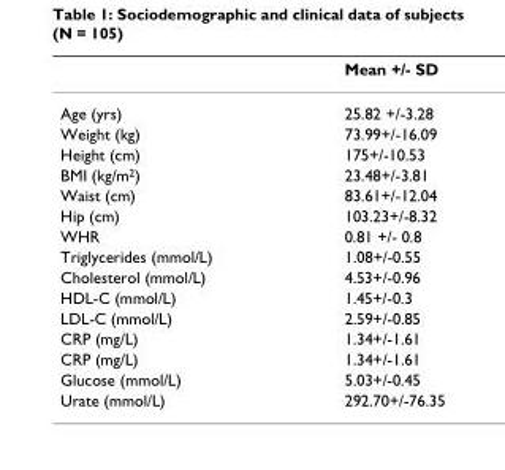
<table><thead><tr><td></td><td>Mean +/- SD</td></tr></thead><tbody><tr><td>Age (yrs)</td><td>25.82 +/-3.28</td></tr><tr><td>Weight (kg)</td><td>73.99+/-16.09</td></tr><tr><td>Height (cm)</td><td>175+/-10.53</td></tr><tr><td>BMI (kg/m<sup>2</sup>)</td><td>23.48+/-3.81</td></tr><tr><td>Waist (cm)</td><td>83.61+/-12.04</td></tr><tr><td>Hip (cm)</td><td>103.23+/-8.32</td></tr><tr><td>WHR</td><td>0.81 +/- 0.8</td></tr><tr><td>Triglycerides (mmol/L)</td><td>1.08+/-0.55</td></tr><tr><td>Cholesterol (mmol/L)</td><td>4.53+/-0.96</td></tr><tr><td>HDL-C (mmol/L)</td><td>1.45+/-0.3</td></tr><tr><td>LDL-C (mmol/L)</td><td>2.59+/-0.85</td></tr><tr><td>CRP (mg/L)</td><td>1.34+/-1.61</td></tr><tr><td>CRP (mg/L)</td><td>1.34+/-1.61</td></tr><tr><td>Glucose (mmol/L)</td><td>5.03+/-0.45</td></tr><tr><td>Urate (mmol/L)</td><td>292.70+/-76.35</td></tr></tbody></table>